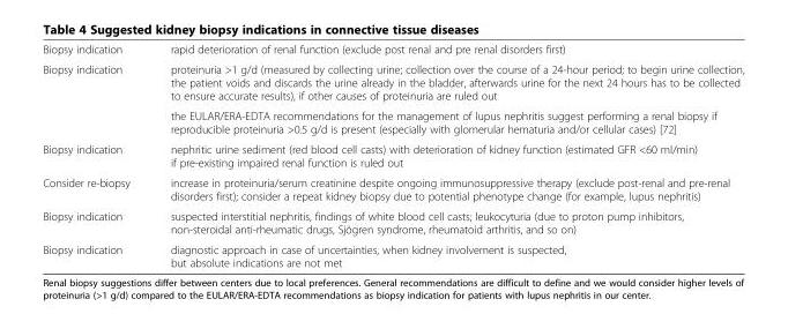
<table><tbody><tr><td>Biopsy indication</td><td>rapid deterioration of renal function (exclude post renal and pre renal disorders first)</td></tr><tr><td rowspan="2">Biopsy indication</td><td>proteinuria &gt;1 g/d (measured by collecting urine; collection over the course of a 24-hour period; to begin urine collection, the patient voids and discards the urine already in the bladder, afterwards urine for the next 24 hours has to be collected to ensure accurate results), if other causes of proteinuria are ruled out</td></tr><tr><td>the EULAR/ERA-EDTA recommendations for the management of lupus nephritis suggest performing a renal biopsy if reproducible proteinuria &gt;0.5 g/d is present (especially with glomerular hematuria and/or cellular cases) [72]</td></tr><tr><td>Biopsy indication</td><td>nephritic urine sediment (red blood cell casts) with deterioration of kidney function (estimated GFR &lt;60 ml/min) if pre-existing impaired renal function is ruled out</td></tr><tr><td>Consider re-biopsy</td><td>increase in proteinuria/serum creatinine despite ongoing immunosuppressive therapy (exclude post-renal and pre-renal disorders first); consider a repeat kidney biopsy due to potential phenotype change (for example, lupus nephritis)</td></tr><tr><td>Biopsy indication</td><td>suspected interstitial nephritis, findings of white blood cell casts; leukocyturia (due to proton pump inhibitors, non-steroidal anti-rheumatic drugs, Sjögren syndrome, rheumatoid arthritis, and so on)</td></tr><tr><td>Biopsy indication</td><td>diagnostic approach in case of uncertainties, when kidney involvement is suspected, but absolute indications are not met</td></tr></tbody></table>